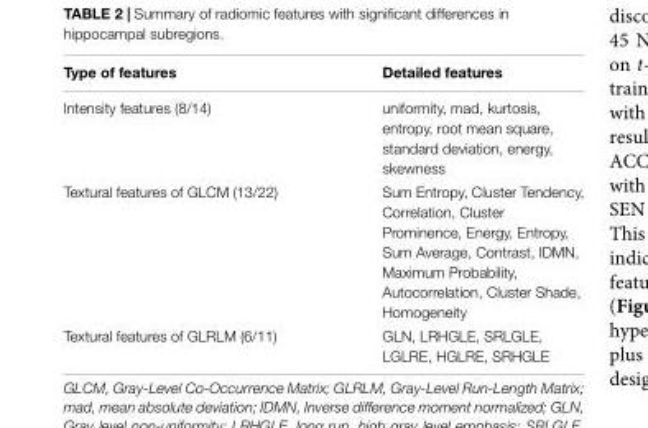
<table><thead><tr><td>Type of features</td><td>Detailed features</td></tr></thead><tbody><tr><td>Intensity features (8/14)</td><td>uniformity, mad, kurtosis, entropy, root mean square, standard deviation, energy, skewness</td></tr><tr><td>Textural features of GLCM (13/22)</td><td>Sum Entropy, Cluster Tendency, Correlation, Cluster Prominence, Energy, Entropy, Sum Average, Contrast, IDMN, Maximum Probability, Autocorrelation, Cluster Shade, Homogeneity</td></tr><tr><td>Textural features of GLRLM (6/11)</td><td>GLN, LRHGLE, SRLGLE, LGLRE, HGLRE, SRHGLE</td></tr></tbody></table>